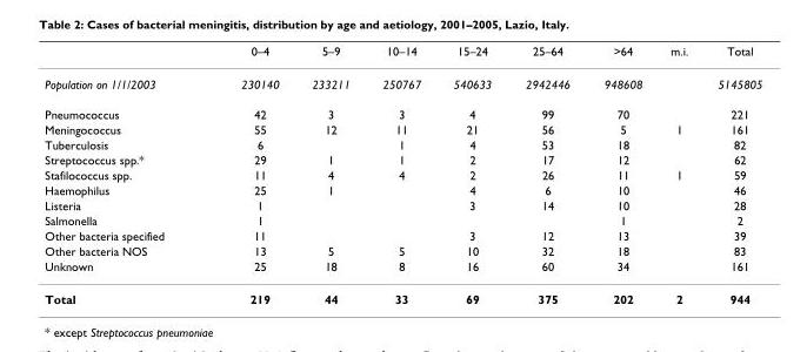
<table><thead><tr><td></td><td>0–4</td><td>5–9</td><td>10–14</td><td>15–24</td><td>25–64</td><td>&gt;64</td><td>m.i.</td><td>Total</td></tr></thead><tbody><tr><td>Population on 1/1/2003</td><td>230140</td><td>233211</td><td>250767</td><td>540633</td><td>2942446</td><td>948608</td><td></td><td>5145805</td></tr><tr><td>Pneumococcus</td><td>42</td><td>3</td><td>3</td><td>4</td><td>99</td><td>70</td><td></td><td>221</td></tr><tr><td>Meningococcus</td><td>55</td><td>12</td><td>11</td><td>21</td><td>56</td><td>5</td><td>1</td><td>161</td></tr><tr><td>Tuberculosis</td><td>6</td><td></td><td>1</td><td>4</td><td>53</td><td>18</td><td></td><td>82</td></tr><tr><td>Streptococcus spp.*</td><td>29</td><td>1</td><td>1</td><td>2</td><td>17</td><td>12</td><td></td><td>62</td></tr><tr><td>Stafilococcus spp.</td><td>11</td><td>4</td><td>4</td><td>2</td><td>26</td><td>11</td><td>1</td><td>59</td></tr><tr><td>Haemophilus</td><td>25</td><td>1</td><td></td><td>4</td><td>6</td><td>10</td><td></td><td>46</td></tr><tr><td>Listeria</td><td>1</td><td></td><td></td><td>3</td><td>14</td><td>10</td><td></td><td>28</td></tr><tr><td>Salmonella</td><td>1</td><td></td><td></td><td></td><td></td><td>1</td><td></td><td>2</td></tr><tr><td>Other bacteria specified</td><td>11</td><td></td><td></td><td>3</td><td>12</td><td>13</td><td></td><td>39</td></tr><tr><td>Other bacteria NOS</td><td>13</td><td>5</td><td>5</td><td>10</td><td>32</td><td>18</td><td></td><td>83</td></tr><tr><td>Unknown</td><td>25</td><td>18</td><td>8</td><td>16</td><td>60</td><td>34</td><td></td><td>161</td></tr><tr><td>Total</td><td>219</td><td>44</td><td>33</td><td>69</td><td>375</td><td>202</td><td>2</td><td>944</td></tr></tbody></table>